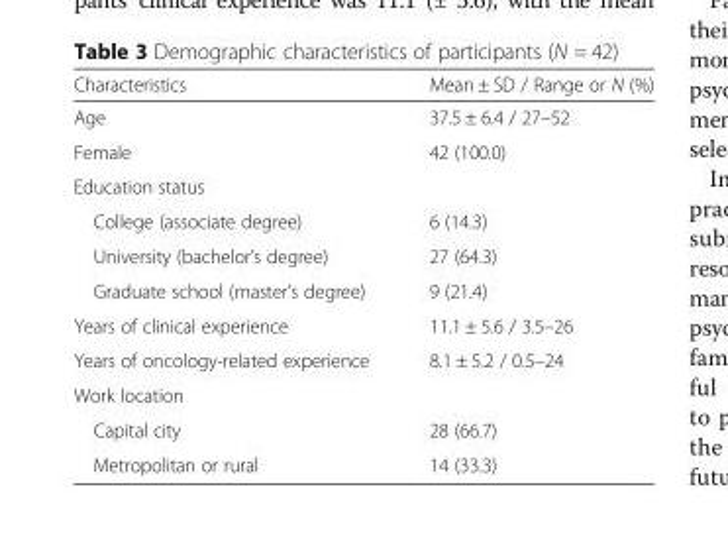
<table><thead><tr><td>Characteristics</td><td>Mean ± SD / Range or N (%)</td></tr></thead><tbody><tr><td>Age</td><td>37.5 ± 6.4 / 27–52</td></tr><tr><td>Female</td><td>42 (100.0)</td></tr><tr><td colspan="2">Education status</td></tr><tr><td>College (associate degree)</td><td>6 (14.3)</td></tr><tr><td>University (bachelor’s degree)</td><td>27 (64.3)</td></tr><tr><td>Graduate school (master’s degree)</td><td>9 (21.4)</td></tr><tr><td>Years of clinical experience</td><td>11.1 ± 5.6 / 3.5–26</td></tr><tr><td>Years of oncology-related experience</td><td>8.1 ± 5.2 / 0.5–24</td></tr><tr><td colspan="2">Work location</td></tr><tr><td>Capital city</td><td>28 (66.7)</td></tr><tr><td>Metropolitan or rural</td><td>14 (33.3)</td></tr></tbody></table>